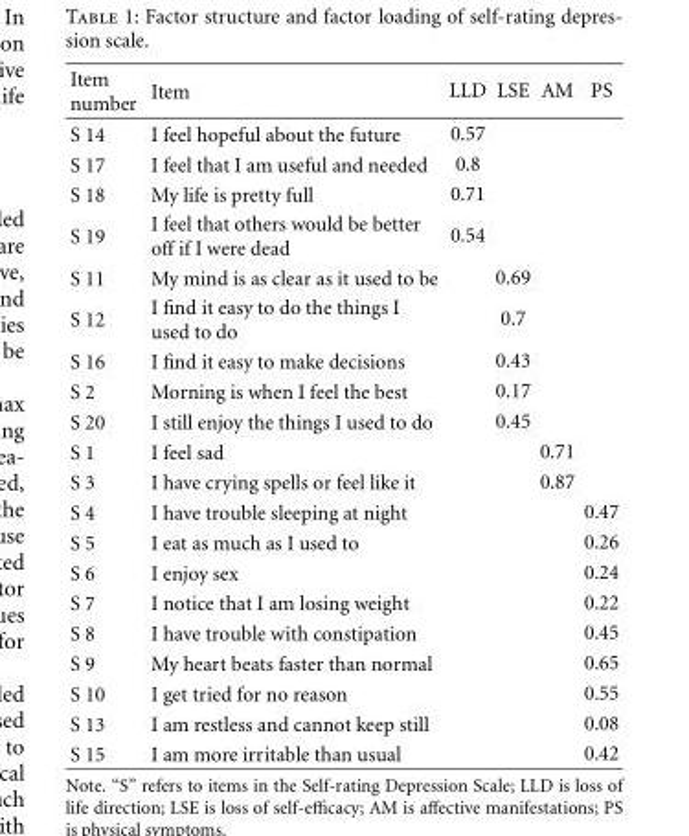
<table><thead><tr><td>Item number</td><td>Item</td><td>LLD</td><td>LSE</td><td>AM</td><td>PS</td></tr></thead><tbody><tr><td>S 14</td><td>I feel hopeful about the future</td><td>0.57</td><td></td><td></td><td></td></tr><tr><td>S 17</td><td>I feel that I am useful and needed</td><td>0.8</td><td></td><td></td><td></td></tr><tr><td>S 18</td><td>My life is pretty full</td><td>0.71</td><td></td><td></td><td></td></tr><tr><td>S 19</td><td>I feel that others would be better off if I were dead</td><td>0.54</td><td></td><td></td><td></td></tr><tr><td>S 11</td><td>My mind is as clear as it used to be</td><td></td><td>0.69</td><td></td><td></td></tr><tr><td>S 12</td><td>I find it easy to do the things I used to do</td><td></td><td>0.7</td><td></td><td></td></tr><tr><td>S 16</td><td>I find it easy to make decisions</td><td></td><td>0.43</td><td></td><td></td></tr><tr><td>S 2</td><td>Morning is when I feel the best</td><td></td><td>0.17</td><td></td><td></td></tr><tr><td>S 20</td><td>I still enjoy the things I used to do</td><td></td><td>0.45</td><td></td><td></td></tr><tr><td>S 1</td><td>I feel sad</td><td></td><td></td><td>0.71</td><td></td></tr><tr><td>S 3</td><td>I have crying spells or feel like it</td><td></td><td></td><td>0.87</td><td></td></tr><tr><td>S 4</td><td>I have trouble sleeping at night</td><td></td><td></td><td></td><td>0.47</td></tr><tr><td>S 5</td><td>I eat as much as I used to</td><td></td><td></td><td></td><td>0.26</td></tr><tr><td>S 6</td><td>I enjoy sex</td><td></td><td></td><td></td><td>0.24</td></tr><tr><td>S 7</td><td>I notice that I am losing weight</td><td></td><td></td><td></td><td>0.22</td></tr><tr><td>S 8</td><td>I have trouble with constipation</td><td></td><td></td><td></td><td>0.45</td></tr><tr><td>S 9</td><td>My heart beats faster than normal</td><td></td><td></td><td></td><td>0.65</td></tr><tr><td>S 10</td><td>I get tried for no reason</td><td></td><td></td><td></td><td>0.55</td></tr><tr><td>S 13</td><td>I am restless and cannot keep still</td><td></td><td></td><td></td><td>0.08</td></tr><tr><td>S 15</td><td>I am more irritable than usual</td><td></td><td></td><td></td><td>0.42</td></tr></tbody></table>